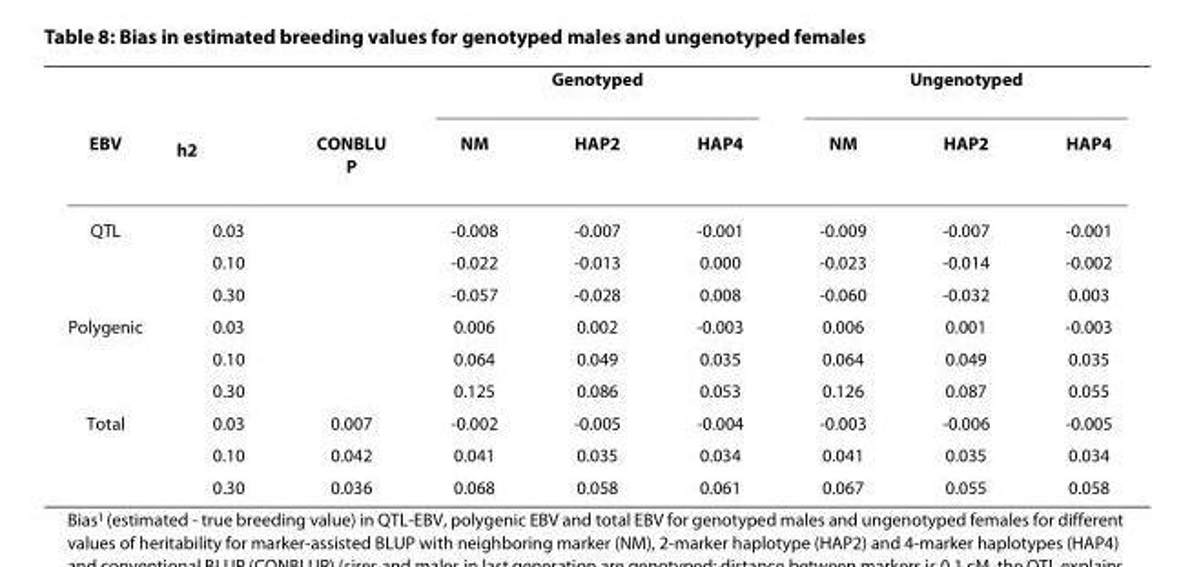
<table><thead><tr><td rowspan="2">EBV</td><td rowspan="2">h<sup>2</sup></td><td rowspan="2">CONBLU P</td><td colspan="3">Genotyped</td><td colspan="3">Ungenotyped</td></tr><tr><td>NM</td><td>HAP2</td><td>HAP4</td><td>NM</td><td>HAP2</td><td>HAP4</td></tr></thead><tbody><tr><td rowspan="3">QTL</td><td>0.03</td><td></td><td>-0.008</td><td>-0.007</td><td>-0.001</td><td>-0.009</td><td>-0.007</td><td>-0.001</td></tr><tr><td>0.10</td><td></td><td>-0.022</td><td>-0.013</td><td>0.000</td><td>-0.023</td><td>-0.014</td><td>-0.002</td></tr><tr><td>0.30</td><td></td><td>-0.057</td><td>-0.028</td><td>0.008</td><td>-0.060</td><td>-0.032</td><td>0.003</td></tr><tr><td rowspan="3">Polygenic</td><td>0.03</td><td></td><td>0.006</td><td>0.002</td><td>-0.003</td><td>0.006</td><td>0.001</td><td>-0.003</td></tr><tr><td>0.10</td><td></td><td>0.064</td><td>0.049</td><td>0.035</td><td>0.064</td><td>0.049</td><td>0.035</td></tr><tr><td>0.30</td><td></td><td>0.125</td><td>0.086</td><td>0.053</td><td>0.126</td><td>0.087</td><td>0.055</td></tr><tr><td rowspan="3">Total</td><td>0.03</td><td>0.007</td><td>-0.002</td><td>-0.005</td><td>-0.004</td><td>-0.003</td><td>-0.006</td><td>-0.005</td></tr><tr><td>0.10</td><td>0.042</td><td>0.041</td><td>0.035</td><td>0.034</td><td>0.041</td><td>0.035</td><td>0.034</td></tr><tr><td>0.30</td><td>0.036</td><td>0.068</td><td>0.058</td><td>0.061</td><td>0.067</td><td>0.055</td><td>0.058</td></tr></tbody></table>